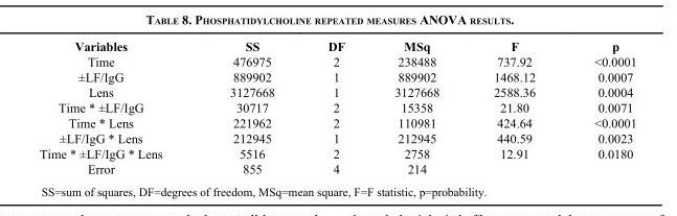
<table><thead><tr><td>Variables</td><td>SS</td><td>DF</td><td>MSq</td><td>F</td><td>p</td></tr></thead><tbody><tr><td>Time</td><td>476975</td><td>2</td><td>238488</td><td>737.92</td><td>&lt;0.0001</td></tr><tr><td>±LF/IgG</td><td>889902</td><td>1</td><td>889902</td><td>1468.12</td><td>0.0007</td></tr><tr><td>Lens</td><td>3127668</td><td>1</td><td>3127668</td><td>2588.36</td><td>0.0004</td></tr><tr><td>Time * ±LF/IgG</td><td>30717</td><td>2</td><td>15358</td><td>21.80</td><td>0.0071</td></tr><tr><td>Time * Lens</td><td>221962</td><td>2</td><td>110981</td><td>424.64</td><td>&lt;0.0001</td></tr><tr><td>±LF/IgG * Lens</td><td>212945</td><td>1</td><td>212945</td><td>440.59</td><td>0.0023</td></tr><tr><td>Time * ±LF/IgG * Lens</td><td>5516</td><td>2</td><td>2758</td><td>12.91</td><td>0.0180</td></tr><tr><td>Error</td><td>855</td><td>4</td><td>214</td><td></td><td></td></tr></tbody></table>